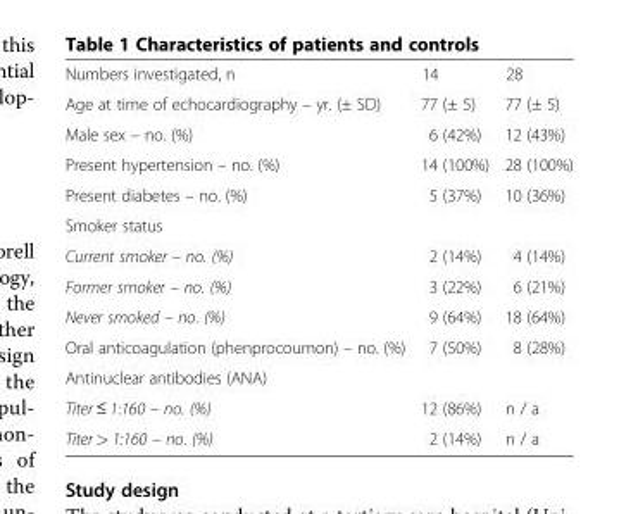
<table><tbody><tr><td>Numbers investigated, n</td><td>14</td><td>28</td></tr><tr><td>Age at time of echocardiography – yr. (± SD)</td><td>77 (± 5)</td><td>77 (± 5)</td></tr><tr><td>Male sex – no. (%)</td><td>6 (42%)</td><td>12 (43%)</td></tr><tr><td>Present hypertension – no. (%)</td><td>14 (100%)</td><td>28 (100%)</td></tr><tr><td>Present diabetes – no. (%)</td><td>5 (37%)</td><td>10 (36%)</td></tr><tr><td colspan="3">Smoker status</td></tr><tr><td>Current smoker – no. (%)</td><td>2 (14%)</td><td>4 (14%)</td></tr><tr><td>Former smoker – no. (%)</td><td>3 (22%)</td><td>6 (21%)</td></tr><tr><td>Never smoked – no. (%)</td><td>9 (64%)</td><td>18 (64%)</td></tr><tr><td>Oral anticoagulation (phenprocoumon) – no. (%)</td><td>7 (50%)</td><td>8 (28%)</td></tr><tr><td colspan="3">Antinuclear antibodies (ANA)</td></tr><tr><td>Titer ≤ 1:160 – no. (%)</td><td>12 (86%)</td><td>n / a</td></tr><tr><td>Titer &gt; 1:160 – no. (%)</td><td>2 (14%)</td><td>n / a</td></tr></tbody></table>